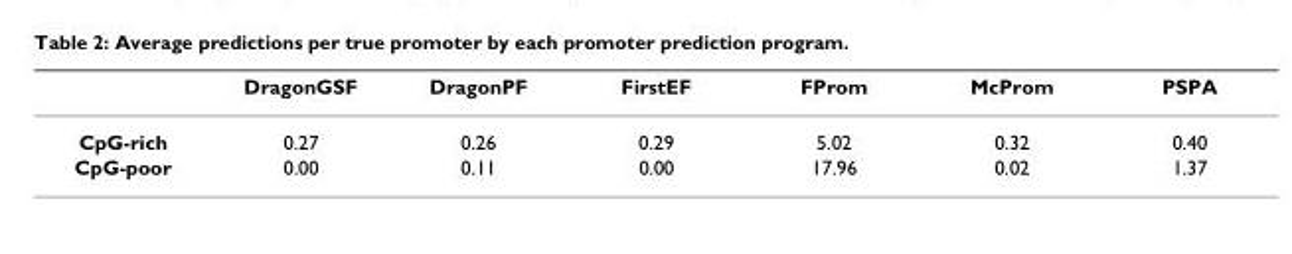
<table><thead><tr><td></td><td>DragonGSF</td><td>DragonPF</td><td>FirstEF</td><td>FProm</td><td>McProm</td><td>PSPA</td></tr></thead><tbody><tr><td>CpG-rich</td><td>0.27</td><td>0.26</td><td>0.29</td><td>5.02</td><td>0.32</td><td>0.40</td></tr><tr><td>CpG-poor</td><td>0.00</td><td>0.11</td><td>0.00</td><td>17.96</td><td>0.02</td><td>1.37</td></tr></tbody></table>